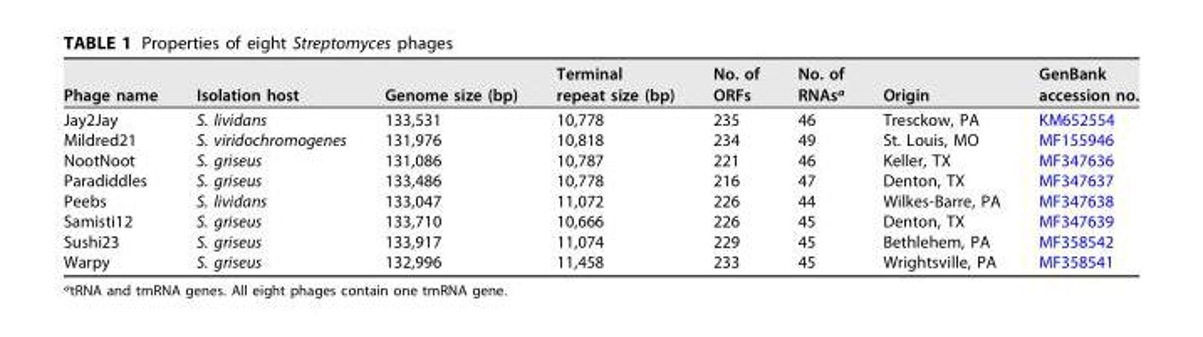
<table><thead><tr><td>Phage name</td><td>Isolation host</td><td>Genome size (bp)</td><td>Terminal repeat size (bp)</td><td>No. of ORFs</td><td>No. of RNAs<sup>a</sup></td><td>Origin</td><td>GenBank accession no.</td></tr></thead><tbody><tr><td>Jay2Jay</td><td>S. lividans</td><td>133,531</td><td>10,778</td><td>235</td><td>46</td><td>Tresckow, PA</td><td>KM652554</td></tr><tr><td>Mildred21</td><td>S. viridochromogenes</td><td>131,976</td><td>10,818</td><td>234</td><td>49</td><td>St. Louis, MO</td><td>MF155946</td></tr><tr><td>NootNoot</td><td>S. griseus</td><td>131,086</td><td>10,787</td><td>221</td><td>46</td><td>Keller, TX</td><td>MF347636</td></tr><tr><td>Paradiddles</td><td>S. griseus</td><td>133,486</td><td>10,778</td><td>216</td><td>47</td><td>Denton, TX</td><td>MF347637</td></tr><tr><td>Peebs</td><td>S. lividans</td><td>133,047</td><td>11,072</td><td>226</td><td>44</td><td>Wilkes-Barre, PA</td><td>MF347638</td></tr><tr><td>Samisti12</td><td>S. griseus</td><td>133,710</td><td>10,666</td><td>226</td><td>45</td><td>Denton, TX</td><td>MF347639</td></tr><tr><td>Sushi23</td><td>S. griseus</td><td>133,917</td><td>11,074</td><td>229</td><td>45</td><td>Bethlehem, PA</td><td>MF358542</td></tr><tr><td>Warpy</td><td>S. griseus</td><td>132,996</td><td>11,458</td><td>233</td><td>45</td><td>Wrightsville, PA</td><td>MF358541</td></tr></tbody></table>